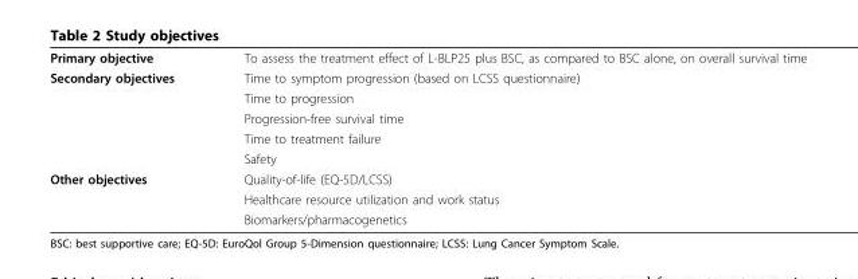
<table><tbody><tr><td>Primary objective</td><td>To assess the treatment effect of L-BLP25 plus BSC, as compared to BSC alone, on overall survival time</td></tr><tr><td rowspan="5">Secondary objectives</td><td>Time to symptom progression (based on LCSS questionnaire)</td></tr><tr><td>Time to progression</td></tr><tr><td>Progression-free survival time</td></tr><tr><td>Time to treatment failure</td></tr><tr><td>Safety</td></tr><tr><td rowspan="3">Other objectives</td><td>Quality-of-life (EQ-5D/LCSS)</td></tr><tr><td>Healthcare resource utilization and work status</td></tr><tr><td>Biomarkers/pharmacogenetics</td></tr></tbody></table>